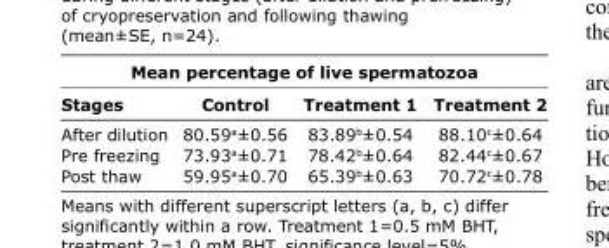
<table><thead><tr><td colspan="4">Mean percentage of live spermatozoa</td></tr><tr><td>Stages</td><td>Control</td><td>Treatment 1</td><td>Treatment 2</td></tr></thead><tbody><tr><td>After dilution</td><td>80.59<sup>a</sup>±0.56</td><td>83.89<sup>b</sup>±0.54</td><td>88.10<sup>c</sup>±0.64</td></tr><tr><td>Pre freezing</td><td>73.93<sup>a</sup>±0.71</td><td>78.42<sup>b</sup>±0.64</td><td>82.44<sup>c</sup>±0.67</td></tr><tr><td>Post thaw</td><td>59.95<sup>a</sup>±0.70</td><td>65.39<sup>b</sup>±0.63</td><td>70.72<sup>c</sup>±0.78</td></tr></tbody></table>